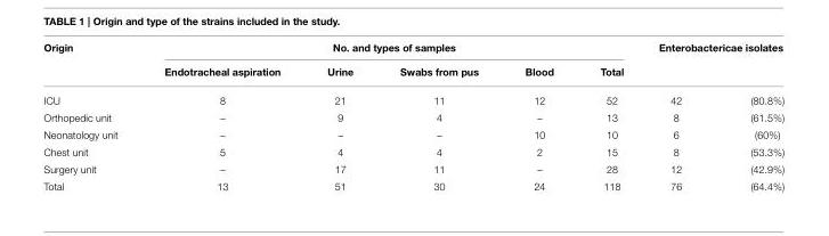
<table><thead><tr><td rowspan="2">Origin</td><td colspan="5">No. and types of samples</td><td colspan="2">Enterobactericae isolates</td></tr><tr><td>Endotracheal aspiration</td><td>Urine</td><td>Swabs from pus</td><td>Blood</td><td>Total</td><td></td><td></td></tr></thead><tbody><tr><td>ICU</td><td>8</td><td>21</td><td>11</td><td>12</td><td>52</td><td>42</td><td>(80.8%)</td></tr><tr><td>Orthopedic unit</td><td>–</td><td>9</td><td>4</td><td>–</td><td>13</td><td>8</td><td>(61.5%)</td></tr><tr><td>Neonatology unit</td><td>–</td><td>–</td><td>–</td><td>10</td><td>10</td><td>6</td><td>(60%)</td></tr><tr><td>Chest unit</td><td>5</td><td>4</td><td>4</td><td>2</td><td>15</td><td>8</td><td>(53.3%)</td></tr><tr><td>Surgery unit</td><td>–</td><td>17</td><td>11</td><td>–</td><td>28</td><td>12</td><td>(42.9%)</td></tr><tr><td>Total</td><td>13</td><td>51</td><td>30</td><td>24</td><td>118</td><td>76</td><td>(64.4%)</td></tr></tbody></table>